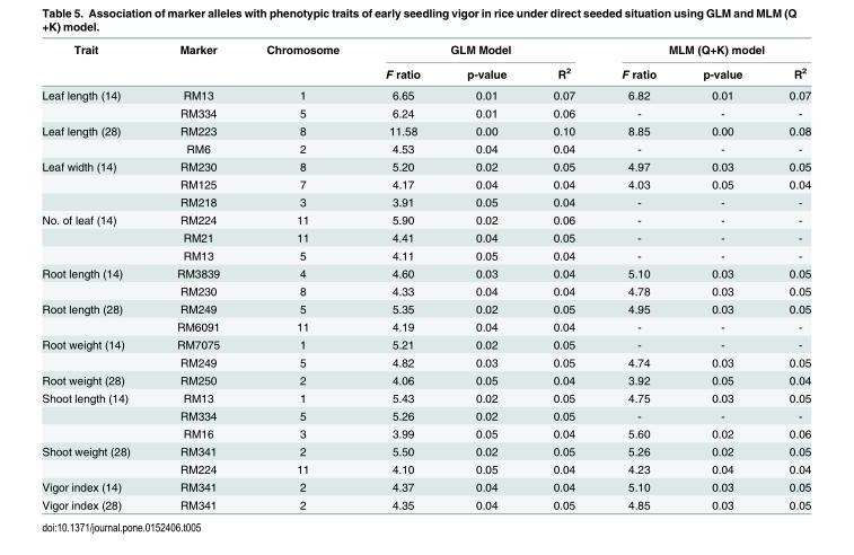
<table><thead><tr><td rowspan="2">Trait</td><td rowspan="2">Marker</td><td rowspan="2">Chromosome</td><td colspan="3">GLM Model</td><td colspan="3">MLM (Q+K) model</td></tr><tr><td>F ratio</td><td>p-value</td><td>R<sup>2</sup></td><td>F ratio</td><td>p-value</td><td>R<sup>2</sup></td></tr></thead><tbody><tr><td rowspan="2">Leaf length (14)</td><td>RM13</td><td>1</td><td>6.65</td><td>0.01</td><td>0.07</td><td>6.82</td><td>0.01</td><td>0.07</td></tr><tr><td>RM334</td><td>5</td><td>6.24</td><td>0.01</td><td>0.06</td><td>-</td><td>-</td><td>-</td></tr><tr><td rowspan="2">Leaf length (28)</td><td>RM223</td><td>8</td><td>11.58</td><td>0.00</td><td>0.10</td><td>8.85</td><td>0.00</td><td>0.08</td></tr><tr><td>RM6</td><td>2</td><td>4.53</td><td>0.04</td><td>0.04</td><td>-</td><td>-</td><td>-</td></tr><tr><td rowspan="3">Leaf width (14)</td><td>RM230</td><td>8</td><td>5.20</td><td>0.02</td><td>0.05</td><td>4.97</td><td>0.03</td><td>0.05</td></tr><tr><td>RM125</td><td>7</td><td>4.17</td><td>0.04</td><td>0.04</td><td>4.03</td><td>0.05</td><td>0.04</td></tr><tr><td>RM218</td><td>3</td><td>3.91</td><td>0.05</td><td>0.04</td><td>-</td><td>-</td><td>-</td></tr><tr><td rowspan="3">No. of leaf (14)</td><td>RM224</td><td>11</td><td>5.90</td><td>0.02</td><td>0.06</td><td>-</td><td>-</td><td>-</td></tr><tr><td>RM21</td><td>11</td><td>4.41</td><td>0.04</td><td>0.05</td><td>-</td><td>-</td><td>-</td></tr><tr><td>RM13</td><td>5</td><td>4.11</td><td>0.05</td><td>0.04</td><td>-</td><td>-</td><td>-</td></tr><tr><td rowspan="2">Root length (14)</td><td>RM3839</td><td>4</td><td>4.60</td><td>0.03</td><td>0.04</td><td>5.10</td><td>0.03</td><td>0.05</td></tr><tr><td>RM230</td><td>8</td><td>4.33</td><td>0.04</td><td>0.04</td><td>4.78</td><td>0.03</td><td>0.05</td></tr><tr><td rowspan="2">Root length (28)</td><td>RM249</td><td>5</td><td>5.35</td><td>0.02</td><td>0.05</td><td>4.95</td><td>0.03</td><td>0.05</td></tr><tr><td>RM6091</td><td>11</td><td>4.19</td><td>0.04</td><td>0.04</td><td>-</td><td>-</td><td>-</td></tr><tr><td rowspan="2">Root weight (14)</td><td>RM7075</td><td>1</td><td>5.21</td><td>0.02</td><td>0.05</td><td>-</td><td>-</td><td>-</td></tr><tr><td>RM249</td><td>5</td><td>4.82</td><td>0.03</td><td>0.05</td><td>4.74</td><td>0.03</td><td>0.05</td></tr><tr><td>Root weight (28)</td><td>RM250</td><td>2</td><td>4.06</td><td>0.05</td><td>0.04</td><td>3.92</td><td>0.05</td><td>0.04</td></tr><tr><td rowspan="3">Shoot length (14)</td><td>RM13</td><td>1</td><td>5.43</td><td>0.02</td><td>0.05</td><td>4.75</td><td>0.03</td><td>0.05</td></tr><tr><td>RM334</td><td>5</td><td>5.26</td><td>0.02</td><td>0.05</td><td>-</td><td>-</td><td>-</td></tr><tr><td>RM16</td><td>3</td><td>3.99</td><td>0.05</td><td>0.04</td><td>5.60</td><td>0.02</td><td>0.06</td></tr><tr><td rowspan="2">Shoot weight (28)</td><td>RM341</td><td>2</td><td>5.50</td><td>0.02</td><td>0.05</td><td>5.26</td><td>0.02</td><td>0.05</td></tr><tr><td>RM224</td><td>11</td><td>4.10</td><td>0.05</td><td>0.04</td><td>4.23</td><td>0.04</td><td>0.04</td></tr><tr><td>Vigor index (14)</td><td>RM341</td><td>2</td><td>4.37</td><td>0.04</td><td>0.04</td><td>5.10</td><td>0.03</td><td>0.05</td></tr><tr><td>Vigor index (28)</td><td>RM341</td><td>2</td><td>4.35</td><td>0.04</td><td>0.05</td><td>4.85</td><td>0.03</td><td>0.05</td></tr></tbody></table>